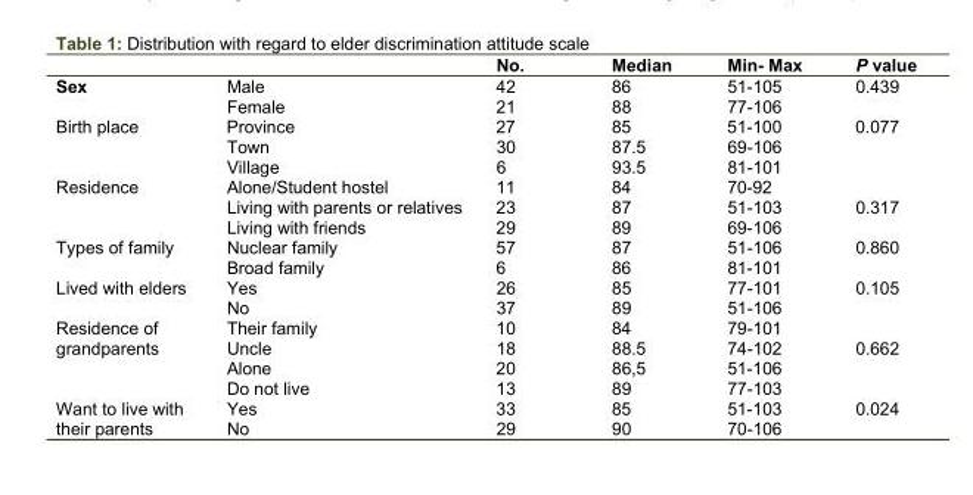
<table><thead><tr><td></td><td></td><td>No.</td><td>Median</td><td>Min- Max</td><td>P value</td></tr></thead><tbody><tr><td rowspan="2">Sex</td><td>Male</td><td>42</td><td>86</td><td>51-105</td><td rowspan="2">0.439</td></tr><tr><td>Female</td><td>21</td><td>88</td><td>77-106</td></tr><tr><td rowspan="3">Birth place</td><td>Province</td><td>27</td><td>85</td><td>51-100</td><td rowspan="3">0.077</td></tr><tr><td>Town</td><td>30</td><td>87.5</td><td>69-106</td></tr><tr><td>Village</td><td>6</td><td>93.5</td><td>81-101</td></tr><tr><td rowspan="3">Residence</td><td>Alone/Student hostel</td><td>11</td><td>84</td><td>70-92</td><td rowspan="3">0.317</td></tr><tr><td>Living with parents or relatives</td><td>23</td><td>87</td><td>51-103</td></tr><tr><td>Living with friends</td><td>29</td><td>89</td><td>69-106</td></tr><tr><td rowspan="2">Types of family</td><td>Nuclear family</td><td>57</td><td>87</td><td>51-106</td><td rowspan="2">0.860</td></tr><tr><td>Broad family</td><td>6</td><td>86</td><td>81-101</td></tr><tr><td rowspan="2">Lived with elders</td><td>Yes</td><td>26</td><td>85</td><td>77-101</td><td rowspan="2">0.105</td></tr><tr><td>No</td><td>37</td><td>89</td><td>51-106</td></tr><tr><td rowspan="4">Residence of grandparents</td><td>Their family</td><td>10</td><td>84</td><td>79-101</td><td rowspan="4">0.662</td></tr><tr><td>Uncle</td><td>18</td><td>88.5</td><td>74-102</td></tr><tr><td>Alone</td><td>20</td><td>86,5</td><td>51-106</td></tr><tr><td>Do not live</td><td>13</td><td>89</td><td>77-103</td></tr><tr><td rowspan="2">Want to live with their parents</td><td>Yes</td><td>33</td><td>85</td><td>51-103</td><td rowspan="2">0.024</td></tr><tr><td>No</td><td>29</td><td>90</td><td>70-106</td></tr></tbody></table>